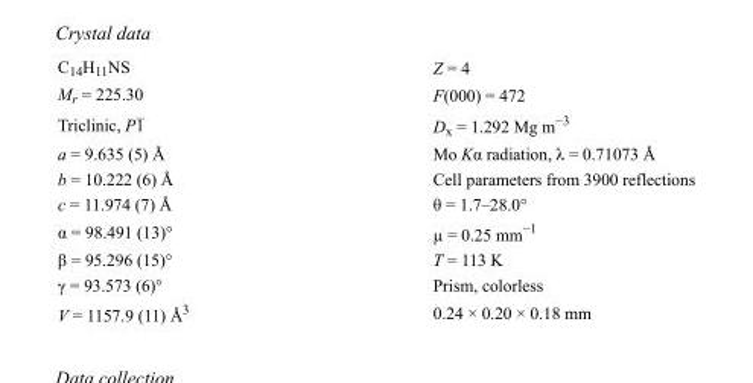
<table><tbody><tr><td>C<sub>14</sub>H<sub>11</sub>NS</td><td>Z = 4</td></tr><tr><td>M<sub>r</sub> = 225.30</td><td>F(000) = 472</td></tr><tr><td>Triclinic, P1</td><td>D<sub>x</sub> = 1.292 Mg m<sup>−3</sup></td></tr><tr><td>a = 9.635 (5) Å</td><td>Mo Kα radiation, λ = 0.71073 Å</td></tr><tr><td>b = 10.222 (6) Å</td><td>Cell parameters from 3900 reflections</td></tr><tr><td>c = 11.974 (7) Å</td><td>θ = 1.7–28.0°</td></tr><tr><td>α = 98.491 (13)°</td><td>µ = 0.25 mm<sup>−1</sup></td></tr><tr><td>β = 95.296 (15)°</td><td>T = 113 K</td></tr><tr><td>γ = 93.573 (6)°</td><td>Prism, colorless</td></tr><tr><td>V = 1157.9 (11) Å<sup>3</sup></td><td>0.24 × 0.20 × 0.18 mm</td></tr></tbody></table>